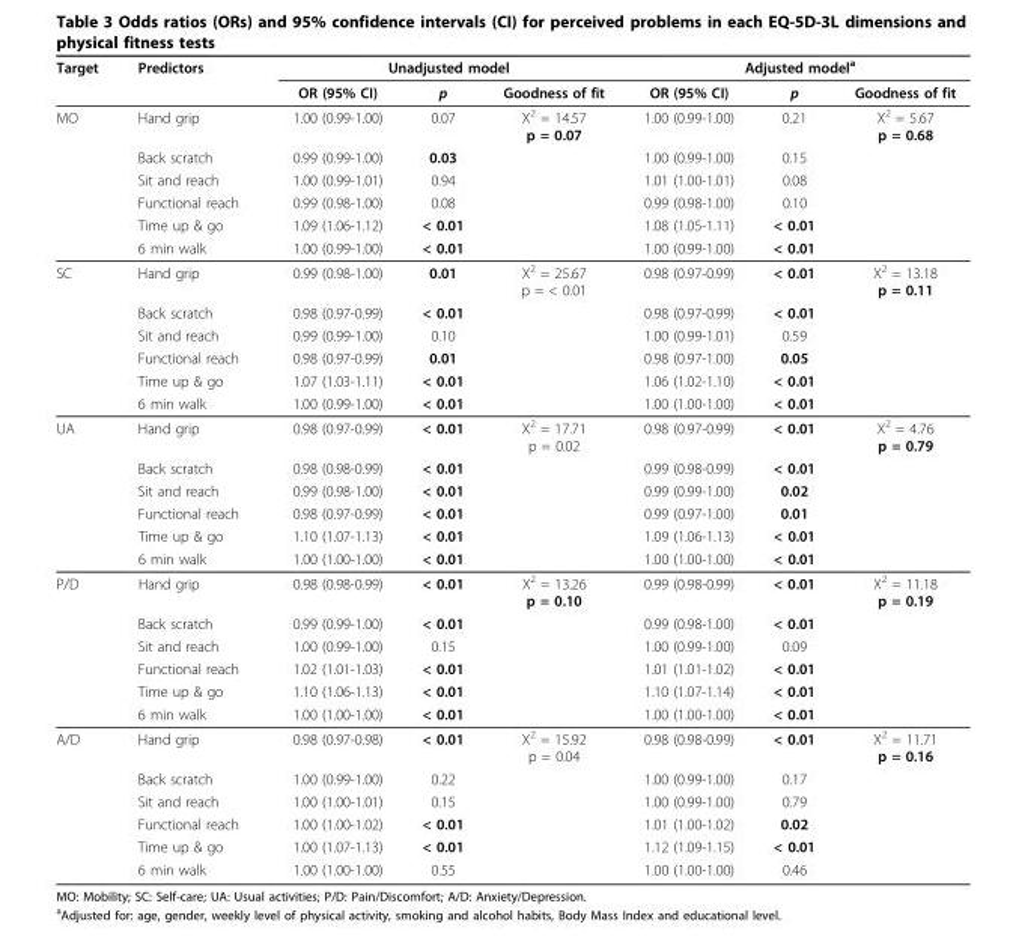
<table><thead><tr><td rowspan="2">Target</td><td rowspan="2">Predictors</td><td colspan="3">Unadjusted model</td><td colspan="3">Adjusted model<sup>a</sup></td></tr><tr><td>OR (95% CI)</td><td>p</td><td>Goodness of fit</td><td>OR (95% CI)</td><td>p</td><td>Goodness of fit</td></tr></thead><tbody><tr><td rowspan="6">MO</td><td>Hand grip</td><td>1.00 (0.99-1.00)</td><td>0.07</td><td>Χ<sup>2</sup> = 14.57 p = 0.07</td><td>1.00 (0.99-1.00)</td><td>0.21</td><td>Χ<sup>2</sup> = 5.67 p = 0.68</td></tr><tr><td>Back scratch</td><td>0.99 (0.99-1.00)</td><td>0.03</td><td></td><td>1.00 (0.99-1.00)</td><td>0.15</td><td></td></tr><tr><td>Sit and reach</td><td>1.00 (0.99-1.01)</td><td>0.94</td><td></td><td>1.01 (1.00-1.01)</td><td>0.08</td><td></td></tr><tr><td>Functional reach</td><td>0.99 (0.98-1.00)</td><td>0.08</td><td></td><td>0.99 (0.98-1.00)</td><td>0.10</td><td></td></tr><tr><td>Time up &amp; go</td><td>1.09 (1.06-1.12)</td><td>&lt; 0.01</td><td></td><td>1.08 (1.05-1.11)</td><td>&lt; 0.01</td><td></td></tr><tr><td>6 min walk</td><td>1.00 (0.99-1.00)</td><td>&lt; 0.01</td><td></td><td>1.00 (0.99-1.00)</td><td>&lt; 0.01</td><td></td></tr><tr><td rowspan="6">SC</td><td>Hand grip</td><td>0.99 (0.98-1.00)</td><td>0.01</td><td>Χ<sup>2</sup> = 25.67 p = &lt; 0.01</td><td>0.98 (0.97-0.99)</td><td>&lt; 0.01</td><td>Χ<sup>2</sup> = 13.18 p = 0.11</td></tr><tr><td>Back scratch</td><td>0.98 (0.97-0.99)</td><td>&lt; 0.01</td><td></td><td>0.98 (0.97-0.99)</td><td>&lt; 0.01</td><td></td></tr><tr><td>Sit and reach</td><td>0.99 (0.99-1.00)</td><td>0.10</td><td></td><td>1.00 (0.99-1.01)</td><td>0.59</td><td></td></tr><tr><td>Functional reach</td><td>0.98 (0.97-0.99)</td><td>0.01</td><td></td><td>0.98 (0.97-1.00)</td><td>0.05</td><td></td></tr><tr><td>Time up &amp; go</td><td>1.07 (1.03-1.11)</td><td>&lt; 0.01</td><td></td><td>1.06 (1.02-1.10)</td><td>&lt; 0.01</td><td></td></tr><tr><td>6 min walk</td><td>1.00 (0.99-1.00)</td><td>&lt; 0.01</td><td></td><td>1.00 (1.00-1.00)</td><td>&lt; 0.01</td><td></td></tr><tr><td rowspan="6">UA</td><td>Hand grip</td><td>0.98 (0.97-0.99)</td><td>&lt; 0.01</td><td>Χ<sup>2</sup> = 17.71 p = 0.02</td><td>0.98 (0.97-0.99)</td><td>&lt; 0.01</td><td>Χ<sup>2</sup> = 4.76 p = 0.79</td></tr><tr><td>Back scratch</td><td>0.98 (0.98-0.99)</td><td>&lt; 0.01</td><td></td><td>0.99 (0.98-0.99)</td><td>&lt; 0.01</td><td></td></tr><tr><td>Sit and reach</td><td>0.99 (0.98-1.00)</td><td>&lt; 0.01</td><td></td><td>0.99 (0.99-1.00)</td><td>0.02</td><td></td></tr><tr><td>Functional reach</td><td>0.98 (0.97-0.99)</td><td>&lt; 0.01</td><td></td><td>0.99 (0.97-1.00)</td><td>0.01</td><td></td></tr><tr><td>Time up &amp; go</td><td>1.10 (1.07-1.13)</td><td>&lt; 0.01</td><td></td><td>1.09 (1.06-1.13)</td><td>&lt; 0.01</td><td></td></tr><tr><td>6 min walk</td><td>1.00 (1.00-1.00)</td><td>&lt; 0.01</td><td></td><td>1.00 (1.00-1.00)</td><td>&lt; 0.01</td><td></td></tr><tr><td rowspan="6">P/D</td><td>Hand grip</td><td>0.98 (0.98-0.99)</td><td>&lt; 0.01</td><td>Χ<sup>2</sup> = 13.26 p = 0.10</td><td>0.99 (0.98-0.99)</td><td>&lt; 0.01</td><td>Χ<sup>2</sup> = 11.18 p = 0.19</td></tr><tr><td>Back scratch</td><td>0.99 (0.99-1.00)</td><td>&lt; 0.01</td><td></td><td>0.99 (0.98-1.00)</td><td>&lt; 0.01</td><td></td></tr><tr><td>Sit and reach</td><td>1.00 (0.99-1.00)</td><td>0.15</td><td></td><td>1.00 (0.99-1.00)</td><td>0.09</td><td></td></tr><tr><td>Functional reach</td><td>1.02 (1.01-1.03)</td><td>&lt; 0.01</td><td></td><td>1.01 (1.01-1.02)</td><td>&lt; 0.01</td><td></td></tr><tr><td>Time up &amp; go</td><td>1.10 (1.06-1.13)</td><td>&lt; 0.01</td><td></td><td>1.10 (1.07-1.14)</td><td>&lt; 0.01</td><td></td></tr><tr><td>6 min walk</td><td>1.00 (1.00-1.00)</td><td>&lt; 0.01</td><td></td><td>1.00 (1.00-1.00)</td><td>&lt; 0.01</td><td></td></tr><tr><td rowspan="6">A/D</td><td>Hand grip</td><td>0.98 (0.97-0.98)</td><td>&lt; 0.01</td><td>Χ<sup>2</sup> = 15.92 p = 0.04</td><td>0.98 (0.98-0.99)</td><td>&lt; 0.01</td><td>Χ<sup>2</sup> = 11.71 p = 0.16</td></tr><tr><td>Back scratch</td><td>1.00 (0.99-1.00)</td><td>0.22</td><td></td><td>1.00 (0.99-1.00)</td><td>0.17</td><td></td></tr><tr><td>Sit and reach</td><td>1.00 (1.00-1.01)</td><td>0.15</td><td></td><td>1.00 (0.99-1.00)</td><td>0.79</td><td></td></tr><tr><td>Functional reach</td><td>1.00 (1.00-1.02)</td><td>&lt; 0.01</td><td></td><td>1.01 (1.00-1.02)</td><td>0.02</td><td></td></tr><tr><td>Time up &amp; go</td><td>1.00 (1.07-1.13)</td><td>&lt; 0.01</td><td></td><td>1.12 (1.09-1.15)</td><td>&lt; 0.01</td><td></td></tr><tr><td>6 min walk</td><td>1.00 (1.00-1.00)</td><td>0.55</td><td></td><td>1.00 (1.00-1.00)</td><td>0.46</td><td></td></tr></tbody></table>